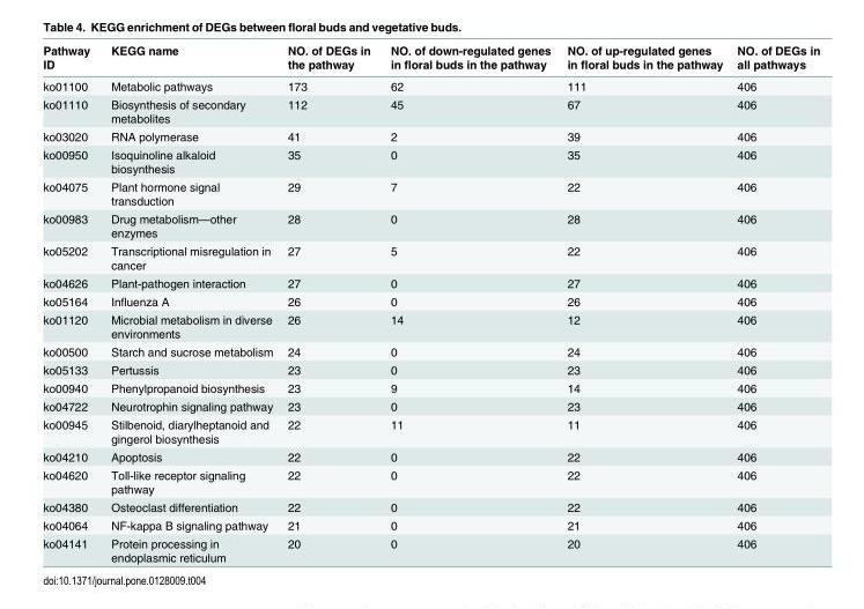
<table><thead><tr><td>Pathway ID</td><td>KEGG name</td><td>NO. of DEGs in the pathway</td><td>NO. of down-regulated genes in floral buds in the pathway</td><td>NO. of up-regulated genes in floral buds in the pathway</td><td>NO. of DEGs in all pathways</td></tr></thead><tbody><tr><td>ko01100</td><td>Metabolic pathways</td><td>173</td><td>62</td><td>111</td><td>406</td></tr><tr><td>ko01110</td><td>Biosynthesis of secondary metabolites</td><td>112</td><td>45</td><td>67</td><td>406</td></tr><tr><td>ko03020</td><td>RNA polymerase</td><td>41</td><td>2</td><td>39</td><td>406</td></tr><tr><td>ko00950</td><td>Isoquinoline alkaloid biosynthesis</td><td>35</td><td>0</td><td>35</td><td>406</td></tr><tr><td>ko04075</td><td>Plant hormone signal transduction</td><td>29</td><td>7</td><td>22</td><td>406</td></tr><tr><td>ko00983</td><td>Drug metabolism—other enzymes</td><td>28</td><td>0</td><td>28</td><td>406</td></tr><tr><td>ko05202</td><td>Transcriptional misregulation in cancer</td><td>27</td><td>5</td><td>22</td><td>406</td></tr><tr><td>ko04626</td><td>Plant-pathogen interaction</td><td>27</td><td>0</td><td>27</td><td>406</td></tr><tr><td>ko05164</td><td>Influenza A</td><td>26</td><td>0</td><td>26</td><td>406</td></tr><tr><td>ko01120</td><td>Microbial metabolism in diverse environments</td><td>26</td><td>14</td><td>12</td><td>406</td></tr><tr><td>ko00500</td><td>Starch and sucrose metabolism</td><td>24</td><td>0</td><td>24</td><td>406</td></tr><tr><td>ko05133</td><td>Pertussis</td><td>23</td><td>0</td><td>23</td><td>406</td></tr><tr><td>ko00940</td><td>Phenylpropanoid biosynthesis</td><td>23</td><td>9</td><td>14</td><td>406</td></tr><tr><td>ko04722</td><td>Neurotrophin signaling pathway</td><td>23</td><td>0</td><td>23</td><td>406</td></tr><tr><td>ko00945</td><td>Stilbenoid, diarylheptanoid and gingerol biosynthesis</td><td>22</td><td>11</td><td>11</td><td>406</td></tr><tr><td>ko04210</td><td>Apoptosis</td><td>22</td><td>0</td><td>22</td><td>406</td></tr><tr><td>ko04620</td><td>Toll-like receptor signaling pathway</td><td>22</td><td>0</td><td>22</td><td>406</td></tr><tr><td>ko04380</td><td>Osteoclast differentiation</td><td>22</td><td>0</td><td>22</td><td>406</td></tr><tr><td>ko04064</td><td>NF-kappa B signaling pathway</td><td>21</td><td>0</td><td>21</td><td>406</td></tr><tr><td>ko04141</td><td>Protein processing in endoplasmic reticulum</td><td>20</td><td>0</td><td>20</td><td>406</td></tr></tbody></table>